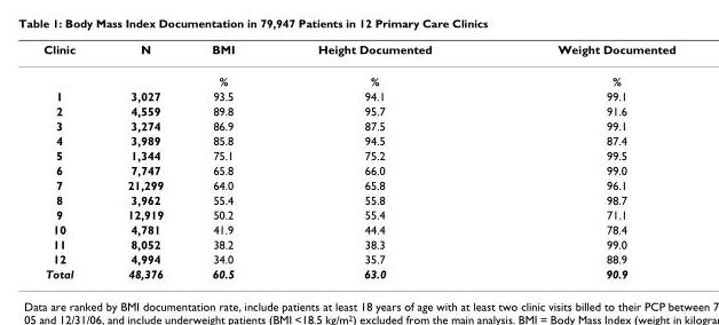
<table><thead><tr><td>Clinic</td><td>N</td><td>BMI</td><td>Height Documented</td><td>Weight Documented</td></tr></thead><tbody><tr><td></td><td></td><td>%</td><td>%</td><td>%</td></tr><tr><td>1</td><td>3,027</td><td>93.5</td><td>94.1</td><td>99.1</td></tr><tr><td>2</td><td>4,559</td><td>89.8</td><td>95.7</td><td>91.6</td></tr><tr><td>3</td><td>3,274</td><td>86.9</td><td>87.5</td><td>99.1</td></tr><tr><td>4</td><td>3,989</td><td>85.8</td><td>94.5</td><td>87.4</td></tr><tr><td>5</td><td>1,344</td><td>75.1</td><td>75.2</td><td>99.5</td></tr><tr><td>6</td><td>7,747</td><td>65.8</td><td>66.0</td><td>99.0</td></tr><tr><td>7</td><td>21,299</td><td>64.0</td><td>65.8</td><td>96.1</td></tr><tr><td>8</td><td>3,962</td><td>55.4</td><td>55.8</td><td>98.7</td></tr><tr><td>9</td><td>12,919</td><td>50.2</td><td>55.4</td><td>71.1</td></tr><tr><td>10</td><td>4,781</td><td>41.9</td><td>44.4</td><td>78.4</td></tr><tr><td>11</td><td>8,052</td><td>38.2</td><td>38.3</td><td>99.0</td></tr><tr><td>12</td><td>4,994</td><td>34.0</td><td>35.7</td><td>88.9</td></tr><tr><td>Total</td><td>48,376</td><td>60.5</td><td>63.0</td><td>90.9</td></tr></tbody></table>